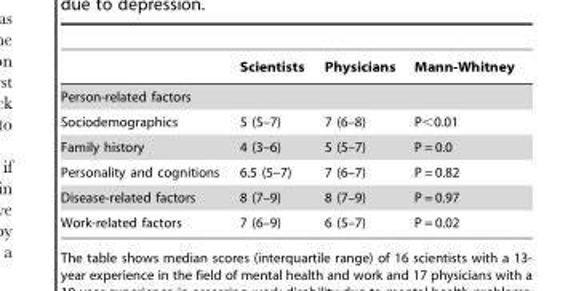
<table><thead><tr><td></td><td>Scientists</td><td>Physicians</td><td>Mann-Whitney</td></tr></thead><tbody><tr><td colspan="4">Person-related factors</td></tr><tr><td>Sociodemographics</td><td>5 (5–7)</td><td>7 (6–8)</td><td>P&lt;0.01</td></tr><tr><td>Family history</td><td>4 (3–6)</td><td>5 (5–7)</td><td>P = 0.0</td></tr><tr><td>Personality and cognitions</td><td>6.5 (5–7)</td><td>7 (6–7)</td><td>P = 0.82</td></tr><tr><td>Disease-related factors</td><td>8 (7–9)</td><td>8 (7–9)</td><td>P = 0.97</td></tr><tr><td>Work-related factors</td><td>7 (6–9)</td><td>6 (5–7)</td><td>P = 0.02</td></tr></tbody></table>